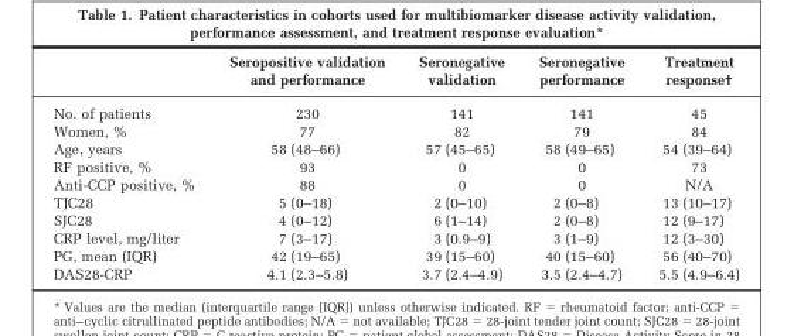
<table><thead><tr><td></td><td>Seropositive validation and performance</td><td>Seronegative validation</td><td>Seronegative performance</td><td>Treatment response†</td></tr></thead><tbody><tr><td>No. of patients</td><td>230</td><td>141</td><td>141</td><td>45</td></tr><tr><td>Women, %</td><td>77</td><td>82</td><td>79</td><td>84</td></tr><tr><td>Age, years</td><td>58 (48–66)</td><td>57 (45–65)</td><td>58 (49–65)</td><td>54 (39–64)</td></tr><tr><td>RF positive, %</td><td>93</td><td>0</td><td>0</td><td>73</td></tr><tr><td>Anti-CCP positive, %</td><td>88</td><td>0</td><td>0</td><td>N/A</td></tr><tr><td>TJC28</td><td>5 (0–18)</td><td>2 (0–10)</td><td>2 (0–8)</td><td>13 (10–17)</td></tr><tr><td>SJC28</td><td>4 (0–12)</td><td>6 (1–14)</td><td>2 (0–8)</td><td>12 (9–17)</td></tr><tr><td>CRP level, mg/liter</td><td>7 (3–17)</td><td>3 (0.9–9)</td><td>3 (1–9)</td><td>12 (3–30)</td></tr><tr><td>PG, mean (IQR)</td><td>42 (19–65)</td><td>39 (15–60)</td><td>40 (15–60)</td><td>56 (40–70)</td></tr><tr><td>DAS28-CRP</td><td>4.1 (2.3–5.8)</td><td>3.7 (2.4–4.9)</td><td>3.5 (2.4–4.7)</td><td>5.5 (4.9–6.4)</td></tr></tbody></table>